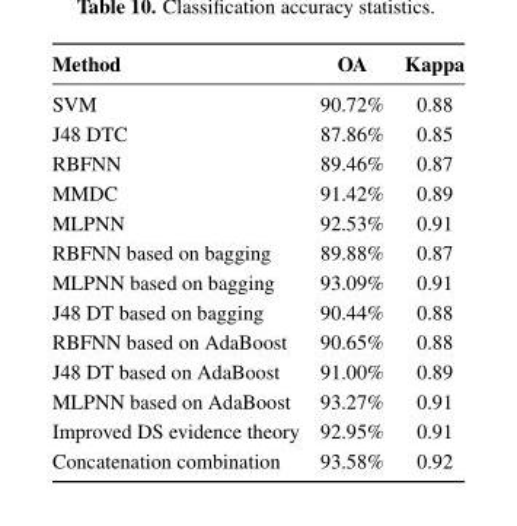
<table><thead><tr><td>Method</td><td>OA</td><td>Kappa</td></tr></thead><tbody><tr><td>SVM</td><td>90.72%</td><td>0.88</td></tr><tr><td>J48 DTC</td><td>87.86%</td><td>0.85</td></tr><tr><td>RBFNN</td><td>89.46%</td><td>0.87</td></tr><tr><td>MMDC</td><td>91.42%</td><td>0.89</td></tr><tr><td>MLPNN</td><td>92.53%</td><td>0.91</td></tr><tr><td>RBFNN based on bagging</td><td>89.88%</td><td>0.87</td></tr><tr><td>MLPNN based on bagging</td><td>93.09%</td><td>0.91</td></tr><tr><td>J48 DT based on bagging</td><td>90.44%</td><td>0.88</td></tr><tr><td>RBFNN based on AdaBoost</td><td>90.65%</td><td>0.88</td></tr><tr><td>J48 DT based on AdaBoost</td><td>91.00%</td><td>0.89</td></tr><tr><td>MLPNN based on AdaBoost</td><td>93.27%</td><td>0.91</td></tr><tr><td>Improved DS evidence theory</td><td>92.95%</td><td>0.91</td></tr><tr><td>Concatenation combination</td><td>93.58%</td><td>0.92</td></tr></tbody></table>